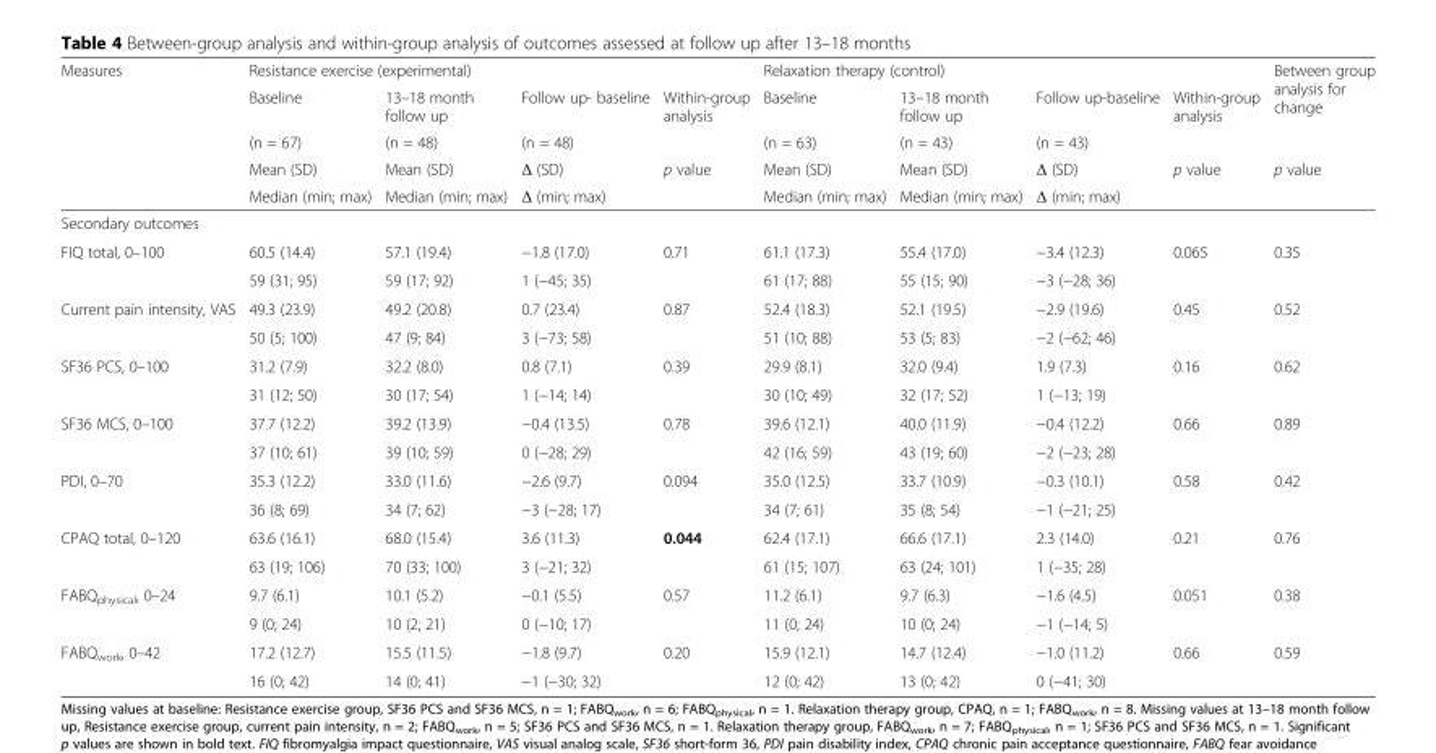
<table><thead><tr><td rowspan="5">Measures</td><td colspan="4">Resistance exercise (experimental)</td><td colspan="4">Relaxation therapy (control)</td><td rowspan="5">Between group analysis for change p value</td></tr><tr><td rowspan="4">Baseline (n = 67) Mean (SD) Median (min; max)</td><td rowspan="4">13–18 month follow up (n = 48) Mean (SD) Median (min; max)</td><td rowspan="4">Follow up- baseline (n = 48) Δ (SD) Δ (min; max)</td><td rowspan="4">Within-group analysis p value</td><td rowspan="4">Baseline (n = 63) Mean (SD) Median (min; max)</td><td rowspan="4">13–18 month follow up (n = 43) Mean (SD) Median (min; max)</td><td rowspan="4">Follow up-baseline (n = 43) Δ (SD) Δ (min; max)</td><td rowspan="4">Within-group analysis p value</td></tr><tr></tr><tr></tr><tr></tr></thead><tbody><tr><td colspan="10">Secondary outcomes</td></tr><tr><td rowspan="2">FIQ total, 0–100</td><td>60.5 (14.4)</td><td>57.1 (19.4)</td><td>−1.8 (17.0)</td><td rowspan="2">0.71</td><td>61.1 (17.3)</td><td>55.4 (17.0)</td><td>−3.4 (12.3)</td><td rowspan="2">0.065</td><td rowspan="2">0.35</td></tr><tr><td>59 (31; 95)</td><td>59 (17; 92)</td><td>1 (−45; 35)</td><td>61 (17; 88)</td><td>55 (15; 90)</td><td>−3 (−28; 36)</td></tr><tr><td rowspan="2">Current pain intensity, VAS</td><td>49.3 (23.9)</td><td>49.2 (20.8)</td><td>0.7 (23.4)</td><td rowspan="2">0.87</td><td>52.4 (18.3)</td><td>52.1 (19.5)</td><td>−2.9 (19.6)</td><td rowspan="2">0.45</td><td rowspan="2">0.52</td></tr><tr><td>50 (5; 100)</td><td>47 (9; 84)</td><td>3 (−73; 58)</td><td>51 (10; 88)</td><td>53 (5; 83)</td><td>−2 (−62; 46)</td></tr><tr><td rowspan="2">SF36 PCS, 0–100</td><td>31.2 (7.9)</td><td>32.2 (8.0)</td><td>0.8 (7.1)</td><td rowspan="2">0.39</td><td>29.9 (8.1)</td><td>32.0 (9.4)</td><td>1.9 (7.3)</td><td rowspan="2">0.16</td><td rowspan="2">0.62</td></tr><tr><td>31 (12; 50)</td><td>30 (17; 54)</td><td>1 (−14; 14)</td><td>30 (10; 49)</td><td>32 (17; 52)</td><td>1 (−13; 19)</td></tr><tr><td rowspan="2">SF36 MCS, 0–100</td><td>37.7 (12.2)</td><td>39.2 (13.9)</td><td>−0.4 (13.5)</td><td rowspan="2">0.78</td><td>39.6 (12.1)</td><td>40.0 (11.9)</td><td>−0.4 (12.2)</td><td rowspan="2">0.66</td><td rowspan="2">0.89</td></tr><tr><td>37 (10; 61)</td><td>39 (10; 59)</td><td>0 (−28; 29)</td><td>42 (16; 59)</td><td>43 (19; 60)</td><td>−2 (−23; 28)</td></tr><tr><td rowspan="2">PDI, 0–70</td><td>35.3 (12.2)</td><td>33.0 (11.6)</td><td>−2.6 (9.7)</td><td rowspan="2">0.094</td><td>35.0 (12.5)</td><td>33.7 (10.9)</td><td>−0.3 (10.1)</td><td rowspan="2">0.58</td><td rowspan="2">0.42</td></tr><tr><td>36 (8; 69)</td><td>34 (7; 62)</td><td>−3 (−28; 17)</td><td>34 (7; 61)</td><td>35 (8; 54)</td><td>−1 (−21; 25)</td></tr><tr><td rowspan="2">CPAQ total, 0–120</td><td>63.6 (16.1)</td><td>68.0 (15.4)</td><td>3.6 (11.3)</td><td rowspan="2">0.044</td><td>62.4 (17.1)</td><td>66.6 (17.1)</td><td>2.3 (14.0)</td><td rowspan="2">0.21</td><td rowspan="2">0.76</td></tr><tr><td>63 (19; 106)</td><td>70 (33; 100)</td><td>3 (−21; 32)</td><td>61 (15; 107)</td><td>63 (24; 101)</td><td>1 (−35; 28)</td></tr><tr><td rowspan="2">FABQ<sub>physical</sub>, 0–24</td><td>9.7 (6.1)</td><td>10.1 (5.2)</td><td>−0.1 (5.5)</td><td rowspan="2">0.57</td><td>11.2 (6.1)</td><td>9.7 (6.3)</td><td>−1.6 (4.5)</td><td rowspan="2">0.051</td><td rowspan="2">0.38</td></tr><tr><td>9 (0; 24)</td><td>10 (2; 21)</td><td>0 (−10; 17)</td><td>11 (0; 24)</td><td>10 (0; 24)</td><td>−1 (−14; 5)</td></tr><tr><td rowspan="2">FABQ<sub>work</sub>, 0–42</td><td>17.2 (12.7)</td><td>15.5 (11.5)</td><td>−1.8 (9.7)</td><td rowspan="2">0.20</td><td>15.9 (12.1)</td><td>14.7 (12.4)</td><td>−1.0 (11.2)</td><td rowspan="2">0.66</td><td rowspan="2">0.59</td></tr><tr><td>16 (0; 42)</td><td>14 (0; 41)</td><td>−1 (−30; 32)</td><td>12 (0; 42)</td><td>13 (0; 42)</td><td>0 (−41; 30)</td></tr></tbody></table>